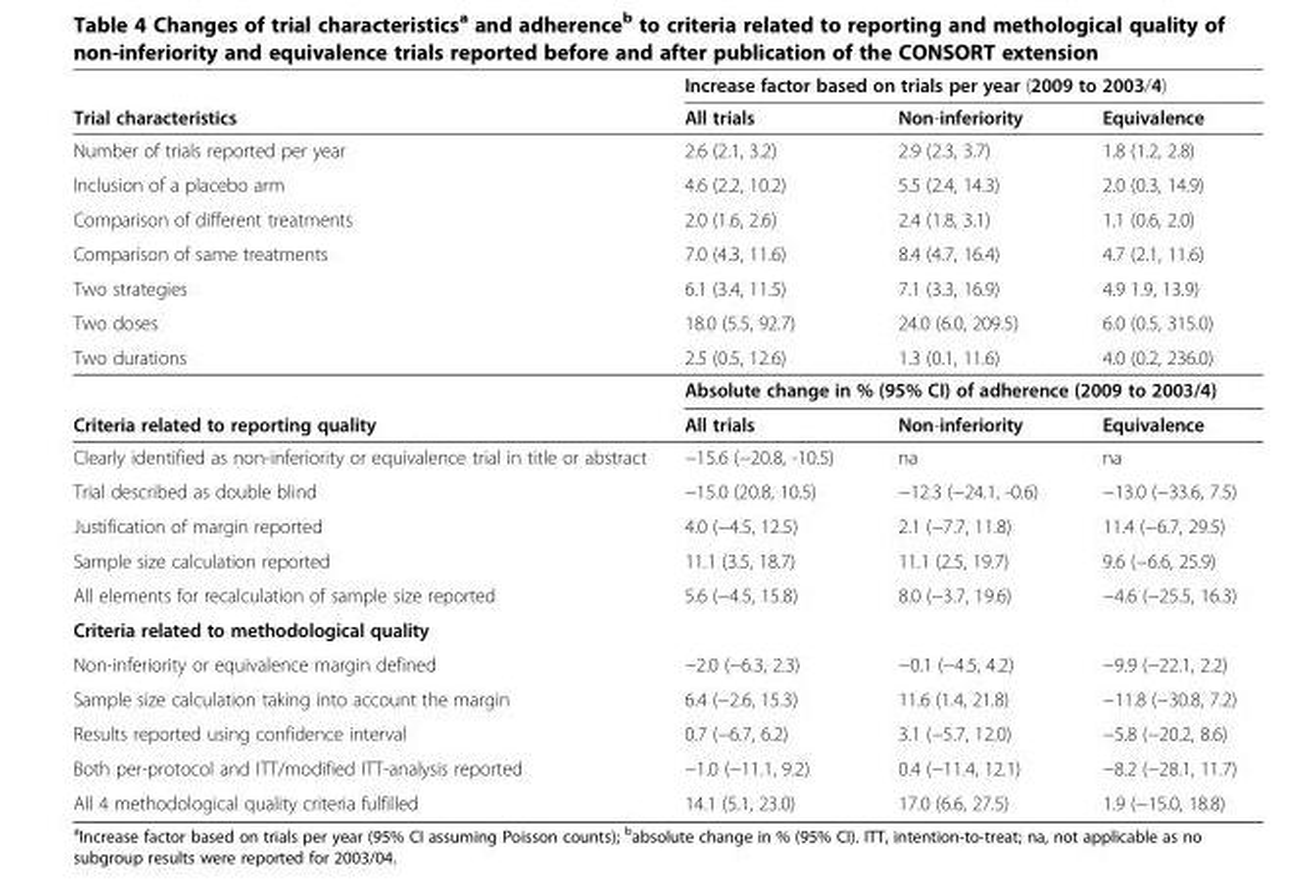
<table><thead><tr><td rowspan="2">Trial characteristics</td><td colspan="3">Increase factor based on trials per year (2009 to 2003/4)</td></tr><tr><td>All trials</td><td>Non-inferiority</td><td>Equivalence</td></tr></thead><tbody><tr><td>Number of trials reported per year</td><td>2.6 (2.1, 3.2)</td><td>2.9 (2.3, 3.7)</td><td>1.8 (1.2, 2.8)</td></tr><tr><td>Inclusion of a placebo arm</td><td>4.6 (2.2, 10.2)</td><td>5.5 (2.4, 14.3)</td><td>2.0 (0.3, 14.9)</td></tr><tr><td>Comparison of different treatments</td><td>2.0 (1.6, 2.6)</td><td>2.4 (1.8, 3.1)</td><td>1.1 (0.6, 2.0)</td></tr><tr><td>Comparison of same treatments</td><td>7.0 (4.3, 11.6)</td><td>8.4 (4.7, 16.4)</td><td>4.7 (2.1, 11.6)</td></tr><tr><td>Two strategies</td><td>6.1 (3.4, 11.5)</td><td>7.1 (3.3, 16.9)</td><td>4.9 1.9, 13.9)</td></tr><tr><td>Two doses</td><td>18.0 (5.5, 92.7)</td><td>24.0 (6.0, 209.5)</td><td>6.0 (0.5, 315.0)</td></tr><tr><td rowspan="2">Two durations</td><td>2.5 (0.5, 12.6)</td><td>1.3 (0.1, 11.6)</td><td>4.0 (0.2, 236.0)</td></tr><tr><td colspan="3">Absolute change in % (95% CI) of adherence (2009 to 2003/4)</td></tr><tr><td>Criteria related to reporting quality</td><td>All trials</td><td>Non-inferiority</td><td>Equivalence</td></tr><tr><td>Clearly identified as non-inferiority or equivalence trial in title or abstract</td><td>−15.6 (−20.8, -10.5)</td><td>na</td><td>na</td></tr><tr><td>Trial described as double blind</td><td>−15.0 (20.8, 10.5)</td><td>−12.3 (−24.1, -0.6)</td><td>−13.0 (−33.6, 7.5)</td></tr><tr><td>Justification of margin reported</td><td>4.0 (−4.5, 12.5)</td><td>2.1 (−7.7, 11.8)</td><td>11.4 (−6.7, 29.5)</td></tr><tr><td>Sample size calculation reported</td><td>11.1 (3.5, 18.7)</td><td>11.1 (2.5, 19.7)</td><td>9.6 (−6.6, 25.9)</td></tr><tr><td>All elements for recalculation of sample size reported</td><td>5.6 (−4.5, 15.8)</td><td>8.0 (−3.7, 19.6)</td><td>−4.6 (−25.5, 16.3)</td></tr><tr><td colspan="4">Criteria related to methodological quality</td></tr><tr><td>Non-inferiority or equivalence margin defined</td><td>−2.0 (−6.3, 2.3)</td><td>−0.1 (−4.5, 4.2)</td><td>−9.9 (−22.1, 2.2)</td></tr><tr><td>Sample size calculation taking into account the margin</td><td>6.4 (−2.6, 15.3)</td><td>11.6 (1.4, 21.8)</td><td>−11.8 (−30.8, 7.2)</td></tr><tr><td>Results reported using confidence interval</td><td>0.7 (−6.7, 6.2)</td><td>3.1 (−5.7, 12.0)</td><td>−5.8 (−20.2, 8.6)</td></tr><tr><td>Both per-protocol and ITT/modified ITT-analysis reported</td><td>−1.0 (−11.1, 9.2)</td><td>0.4 (−11.4, 12.1)</td><td>−8.2 (−28.1, 11.7)</td></tr><tr><td>All 4 methodological quality criteria fulfilled</td><td>14.1 (5.1, 23.0)</td><td>17.0 (6.6, 27.5)</td><td>1.9 (−15.0, 18.8)</td></tr></tbody></table>